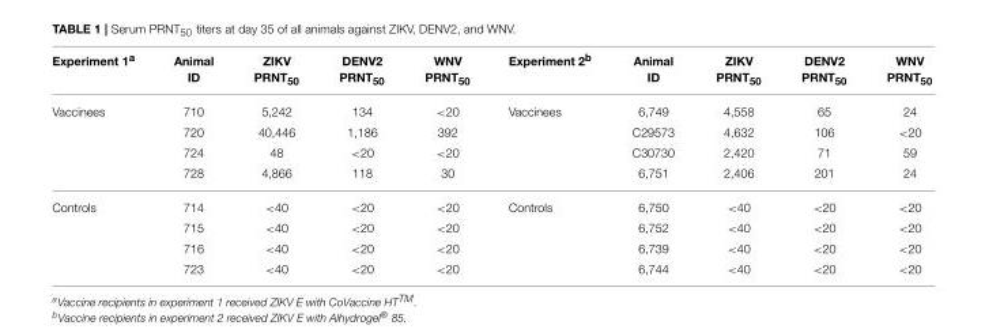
<table><thead><tr><td>Experiment 1<sup>a</sup></td><td>Animal ID</td><td>ZIKV PRNT<sub>50</sub></td><td>DENV2 PRNT<sub>50</sub></td><td>WNV PRNT<sub>50</sub></td><td>Experiment 2<sup>b</sup></td><td>Animal ID</td><td>ZIKV PRNT<sub>50</sub></td><td>DENV2 PRNT<sub>50</sub></td><td>WNV PRNT<sub>50</sub></td></tr></thead><tbody><tr><td rowspan="4">Vaccinees</td><td>710</td><td>5,242</td><td>134</td><td>&lt;20</td><td>Vaccinees</td><td>6,749</td><td>4,558</td><td>65</td><td>24</td></tr><tr><td>720</td><td>40,446</td><td>1,186</td><td>392</td><td></td><td>C29573</td><td>4,632</td><td>106</td><td>&lt;20</td></tr><tr><td>724</td><td>48</td><td>&lt;20</td><td>&lt;20</td><td></td><td>C30730</td><td>2,420</td><td>71</td><td>59</td></tr><tr><td>728</td><td>4,866</td><td>118</td><td>30</td><td></td><td>6,751</td><td>2,406</td><td>201</td><td>24</td></tr><tr><td rowspan="4">Controls</td><td>714</td><td>&lt;40</td><td>&lt;20</td><td>&lt;20</td><td>Controls</td><td>6,750</td><td>&lt;40</td><td>&lt;20</td><td>&lt;20</td></tr><tr><td>715</td><td>&lt;40</td><td>&lt;20</td><td>&lt;20</td><td></td><td>6,752</td><td>&lt;40</td><td>&lt;20</td><td>&lt;20</td></tr><tr><td>716</td><td>&lt;40</td><td>&lt;20</td><td>&lt;20</td><td></td><td>6,739</td><td>&lt;40</td><td>&lt;20</td><td>&lt;20</td></tr><tr><td>723</td><td>&lt;40</td><td>&lt;20</td><td>&lt;20</td><td></td><td>6,744</td><td>&lt;40</td><td>&lt;20</td><td>&lt;20</td></tr></tbody></table>